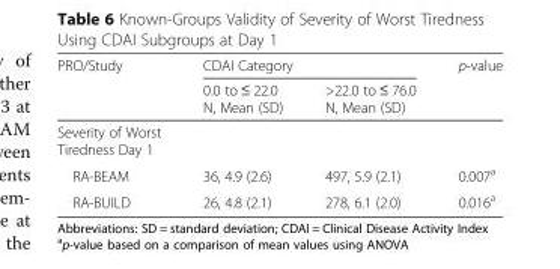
<table><thead><tr><td rowspan="2">PRO/Study</td><td colspan="2">CDAI Category</td><td rowspan="2">p-value</td></tr><tr><td>0.0 to ≤ 22.0 N, Mean (SD)</td><td>&gt;22.0 to ≤ 76.0 N, Mean (SD)</td></tr></thead><tbody><tr><td colspan="4">Severity of Worst Tiredness Day 1</td></tr><tr><td>RA-BEAM</td><td>36, 4.9 (2.6)</td><td>497, 5.9 (2.1)</td><td>0.007<sup>a</sup></td></tr><tr><td>RA-BUILD</td><td>26, 4.8 (2.1)</td><td>278, 6.1 (2.0)</td><td>0.016<sup>a</sup></td></tr></tbody></table>